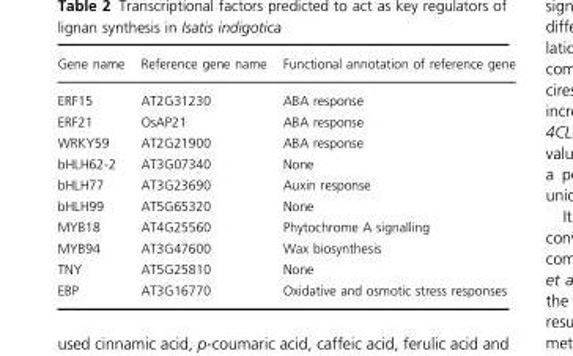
<table><thead><tr><td>Gene name</td><td>Reference gene name</td><td>Functional annotation of reference gene</td></tr></thead><tbody><tr><td>ERF15</td><td>AT2G31230</td><td>ABA response</td></tr><tr><td>ERF21</td><td>OsAP21</td><td>ABA response</td></tr><tr><td>WRKY59</td><td>AT2G21900</td><td>ABA response</td></tr><tr><td>bHLH62-2</td><td>AT3G07340</td><td>None</td></tr><tr><td>bHLH77</td><td>AT3G23690</td><td>Auxin response</td></tr><tr><td>bHLH99</td><td>AT5G65320</td><td>None</td></tr><tr><td>MYB18</td><td>AT4G25560</td><td>Phytochrome A signalling</td></tr><tr><td>MYB94</td><td>AT3G47600</td><td>Wax biosynthesis</td></tr><tr><td>TNY</td><td>AT5G25810</td><td>None</td></tr><tr><td>EBP</td><td>AT3G16770</td><td>Oxidative and osmotic stress responses</td></tr></tbody></table>